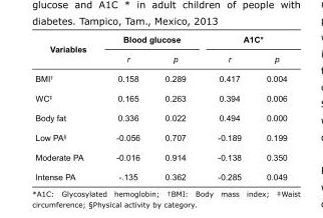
<table><tbody><tr><td rowspan="2">Variables</td><td colspan="2">Blood glucose</td><td colspan="2">A1C*</td></tr><tr><td>r</td><td>p</td><td>r</td><td>p</td></tr><tr><td>BMI<sup>†</sup></td><td>0.158</td><td>0.289</td><td>0.417</td><td>0.004</td></tr><tr><td>WC<sup>‡</sup></td><td>0.165</td><td>0.263</td><td>0.394</td><td>0.006</td></tr><tr><td>Body fat</td><td>0.336</td><td>0.022</td><td>0.494</td><td>0.000</td></tr><tr><td>Low PA<sup>§</sup></td><td>-0.056</td><td>0.707</td><td>-0.189</td><td>0.199</td></tr><tr><td>Moderate PA</td><td>-0.016</td><td>0.914</td><td>-0.138</td><td>0.350</td></tr><tr><td>Intense PA</td><td>-.135</td><td>0.362</td><td>-0.285</td><td>0.049</td></tr></tbody></table>